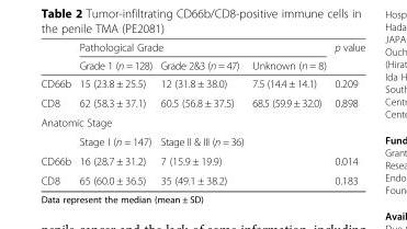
<table><thead><tr><td rowspan="2"></td><td colspan="3">Pathological Grade</td><td rowspan="2">p value</td></tr><tr><td>Grade 1 (n = 128)</td><td>Grade 2&amp;3 (n = 47)</td><td>Unknown (n = 8)</td></tr></thead><tbody><tr><td>CD66b</td><td>15 (23.8 ± 25.5)</td><td>12 (31.8 ± 38.0)</td><td>7.5 (14.4 ± 14.1)</td><td>0.209</td></tr><tr><td>CD8</td><td>62 (58.3 ± 37.1)</td><td>60.5 (56.8 ± 37.5)</td><td>68.5 (59.9 ± 32.0)</td><td>0.898</td></tr><tr><td colspan="5">Anatomic Stage</td></tr><tr><td></td><td>Stage I (n = 147)</td><td>Stage II &amp; III (n = 36)</td><td></td><td></td></tr><tr><td>CD66b</td><td>16 (28.7 ± 31.2)</td><td>7 (15.9 ± 19.9)</td><td></td><td>0.014</td></tr><tr><td>CD8</td><td>65 (60.0 ± 36.5)</td><td>35 (49.1 ± 38.2)</td><td></td><td>0.183</td></tr></tbody></table>